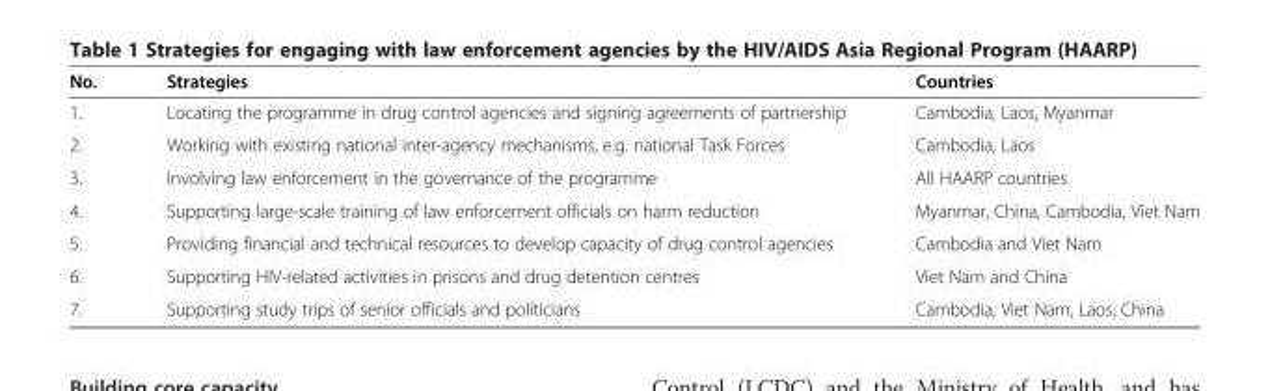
<table><thead><tr><td>No.</td><td>Strategies</td><td>Countries</td></tr></thead><tbody><tr><td>1.</td><td>Locating the programme in drug control agencies and signing agreements of partnership</td><td>Cambodia, Laos, Myanmar</td></tr><tr><td>2.</td><td>Working with existing national inter-agency mechanisms, e.g. national Task Forces</td><td>Cambodia, Laos</td></tr><tr><td>3.</td><td>Involving law enforcement in the governance of the programme</td><td>All HAARP countries</td></tr><tr><td>4.</td><td>Supporting large-scale training of law enforcement officials on harm reduction</td><td>Myanmar, China, Cambodia, Viet Nam</td></tr><tr><td>5.</td><td>Providing financial and technical resources to develop capacity of drug control agencies</td><td>Cambodia and Viet Nam</td></tr><tr><td>6.</td><td>Supporting HIV-related activities in prisons and drug detention centres</td><td>Viet Nam and China</td></tr><tr><td>7.</td><td>Supporting study trips of senior officials and politicians</td><td>Cambodia, Viet Nam, Laos, China</td></tr></tbody></table>